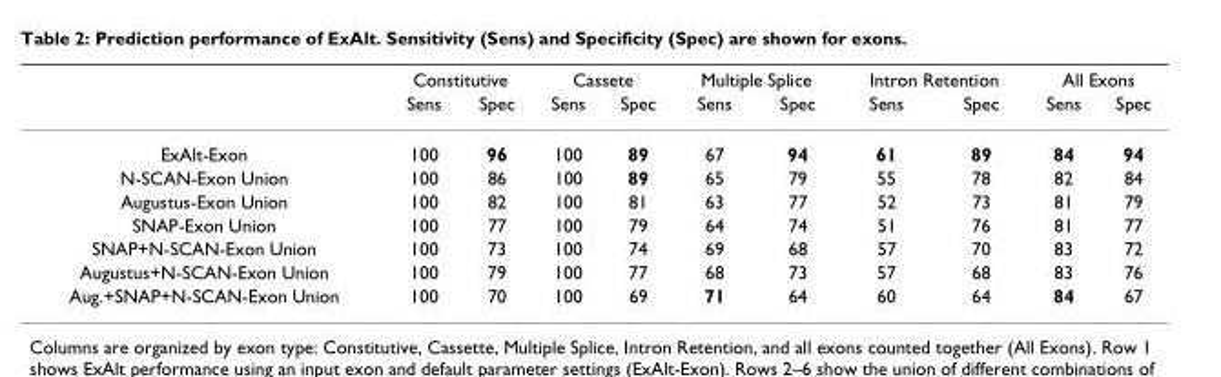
<table><thead><tr><td rowspan="2"></td><td colspan="2">Constitutive</td><td colspan="2">Cassete</td><td colspan="2">Multiple Splice</td><td colspan="2">Intron Retention</td><td colspan="2">All Exons</td></tr><tr><td>Sens</td><td>Spec</td><td>Sens</td><td>Spec</td><td>Sens</td><td>Spec</td><td>Sens</td><td>Spec</td><td>Sens</td><td>Spec</td></tr></thead><tbody><tr><td>ExAlt-Exon</td><td>100</td><td>96</td><td>100</td><td>89</td><td>67</td><td>94</td><td>61</td><td>89</td><td>84</td><td>94</td></tr><tr><td>N-SCAN-Exon Union</td><td>100</td><td>86</td><td>100</td><td>89</td><td>65</td><td>79</td><td>55</td><td>78</td><td>82</td><td>84</td></tr><tr><td>Augustus-Exon Union</td><td>100</td><td>82</td><td>100</td><td>81</td><td>63</td><td>77</td><td>52</td><td>73</td><td>81</td><td>79</td></tr><tr><td>SNAP-Exon Union</td><td>100</td><td>77</td><td>100</td><td>79</td><td>64</td><td>74</td><td>51</td><td>76</td><td>81</td><td>77</td></tr><tr><td>SNAP+N-SCAN-Exon Union</td><td>100</td><td>73</td><td>100</td><td>74</td><td>69</td><td>68</td><td>57</td><td>70</td><td>83</td><td>72</td></tr><tr><td>Augustus+N-SCAN-Exon Union</td><td>100</td><td>79</td><td>100</td><td>77</td><td>68</td><td>73</td><td>57</td><td>68</td><td>83</td><td>76</td></tr><tr><td>Aug.+SNAP+N-SCAN-Exon Union</td><td>100</td><td>70</td><td>100</td><td>69</td><td>71</td><td>64</td><td>60</td><td>64</td><td>84</td><td>67</td></tr></tbody></table>